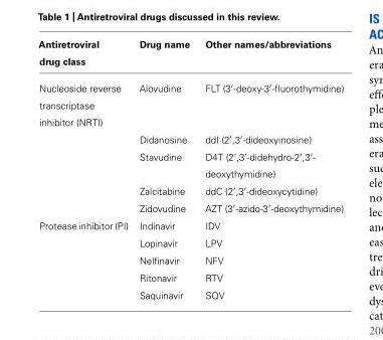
<table><thead><tr><td>Antiretroviral drug class</td><td>Drug name</td><td>Other names/abbreviations</td></tr></thead><tbody><tr><td rowspan="5">Nucleoside reverse transcriptase inhibitor (NRTI)</td><td>Alovudine</td><td>FLT (3′-deoxy-3′-fluorothymidine)</td></tr><tr><td>Didanosine</td><td>ddI (2′,3′-dideoxyinosine)</td></tr><tr><td>Stavudine</td><td>D4T (2′,3′-didehydro-2′,3′- deoxythymidine)</td></tr><tr><td>Zalcitabine</td><td>ddC (2′,3′-dideoxycytidine)</td></tr><tr><td>Zidovudine</td><td>AZT (3′-azido-3′-deoxythymidine)</td></tr><tr><td rowspan="5">Protease inhibitor (PI)</td><td>Indinavir</td><td>IDV</td></tr><tr><td>Lopinavir</td><td>LPV</td></tr><tr><td>Nelfinavir</td><td>NFV</td></tr><tr><td>Ritonavir</td><td>RTV</td></tr><tr><td>Saquinavir</td><td>SQV</td></tr></tbody></table>